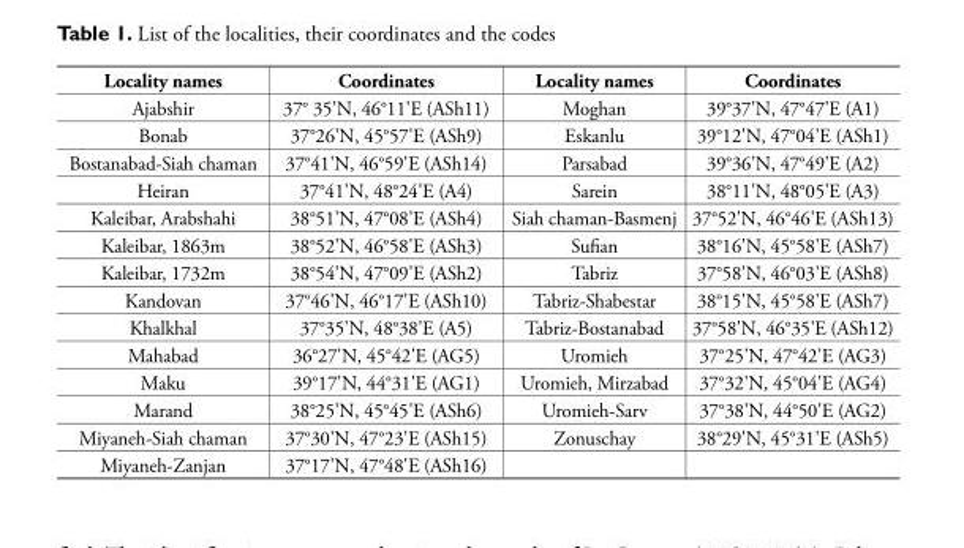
<table><thead><tr><td>Locality names</td><td>Coordinates</td><td>Locality names</td><td>Coordinates</td></tr></thead><tbody><tr><td>Ajabshir</td><td>37° 35&#x27;N, 46°11&#x27;E (ASh11)</td><td>Moghan</td><td>39°37&#x27;N, 47°47&#x27;E (A1)</td></tr><tr><td>Bonab</td><td>37°26&#x27;N, 45°57&#x27;E (ASh9)</td><td>Eskanlu</td><td>39°12&#x27;N, 47°04&#x27;E (ASh1)</td></tr><tr><td>Bostanabad-Siah chaman</td><td>37°41&#x27;N, 46°59&#x27;E (ASh14)</td><td>Parsabad</td><td>39°36&#x27;N, 47°49&#x27;E (A2)</td></tr><tr><td>Heiran</td><td>37°41&#x27;N, 48°24&#x27;E (A4)</td><td>Sarein</td><td>38°11&#x27;N, 48°05&#x27;E (A3)</td></tr><tr><td>Kaleibar, Arabshahi</td><td>38°51&#x27;N, 47°08&#x27;E (ASh4)</td><td>Siah chaman-Basmenj</td><td>37°52&#x27;N, 46°46&#x27;E (ASh13)</td></tr><tr><td>Kaleibar, 1863m</td><td>38°52&#x27;N, 46°58&#x27;E (ASh3)</td><td>Sufian</td><td>38°16&#x27;N, 45°58&#x27;E (ASh7)</td></tr><tr><td>Kaleibar, 1732m</td><td>38°54&#x27;N, 47°09&#x27;E (ASh2)</td><td>Tabriz</td><td>37°58&#x27;N, 46°03&#x27;E (ASh8)</td></tr><tr><td>Kandovan</td><td>37°46&#x27;N, 46°17&#x27;E (ASh10)</td><td>Tabriz-Shabestar</td><td>38°15&#x27;N, 45°58&#x27;E (ASh7)</td></tr><tr><td>Khalkhal</td><td>37°35&#x27;N, 48°38&#x27;E (A5)</td><td>Tabriz-Bostanabad</td><td>37°58&#x27;N, 46°35&#x27;E (ASh12)</td></tr><tr><td>Mahabad</td><td>36°27&#x27;N, 45°42&#x27;E (AG5)</td><td>Uromieh</td><td>37°25&#x27;N, 47°42&#x27;E (AG3)</td></tr><tr><td>Maku</td><td>39°17&#x27;N, 44°31&#x27;E (AG1)</td><td>Uromieh, Mirzabad</td><td>37°32&#x27;N, 45°04&#x27;E (AG4)</td></tr><tr><td>Marand</td><td>38°25&#x27;N, 45°45&#x27;E (ASh6)</td><td>Uromieh-Sarv</td><td>37°38&#x27;N, 44°50&#x27;E (AG2)</td></tr><tr><td>Miyaneh-Siah chaman</td><td>37°30&#x27;N, 47°23&#x27;E (ASh15)</td><td>Zonuschay</td><td>38°29&#x27;N, 45°31&#x27;E (ASh5)</td></tr><tr><td>Miyaneh-Zanjan</td><td>37°17&#x27;N, 47°48&#x27;E (ASh16)</td><td></td><td></td></tr></tbody></table>